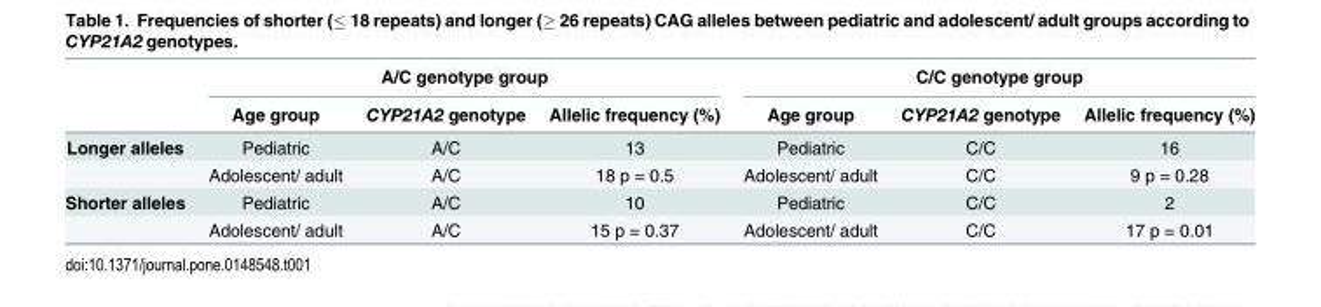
<table><thead><tr><td rowspan="2"></td><td colspan="3">A/C genotype group</td><td colspan="3">C/C genotype group</td></tr><tr><td>Age group</td><td>CYP21A2 genotype</td><td>Allelic frequency (%)</td><td>Age group</td><td>CYP21A2 genotype</td><td>Allelic frequency (%)</td></tr></thead><tbody><tr><td rowspan="2">Longer alleles</td><td>Pediatric</td><td>A/C</td><td>13</td><td>Pediatric</td><td>C/C</td><td>16</td></tr><tr><td>Adolescent/ adult</td><td>A/C</td><td>18 p = 0.5</td><td>Adolescent/ adult</td><td>C/C</td><td>9 p = 0.28</td></tr><tr><td rowspan="2">Shorter alleles</td><td>Pediatric</td><td>A/C</td><td>10</td><td>Pediatric</td><td>C/C</td><td>2</td></tr><tr><td>Adolescent/ adult</td><td>A/C</td><td>15 p = 0.37</td><td>Adolescent/ adult</td><td>C/C</td><td>17 p = 0.01</td></tr></tbody></table>